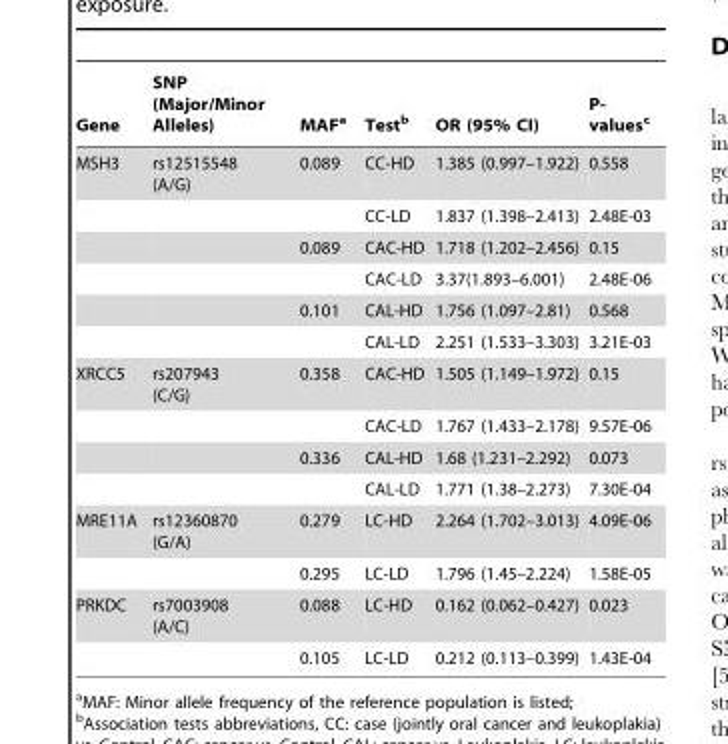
<table><thead><tr><td>Gene</td><td>SNP (Major/Minor Alleles)</td><td>MAF<sup>a</sup></td><td>Test<sup>b</sup></td><td>OR (95% CI)</td><td>P- values<sup>c</sup></td></tr></thead><tbody><tr><td rowspan="6">MSH3</td><td>rs12515548 (A/G)</td><td>0.089</td><td>CC-HD</td><td>1.385 (0.997–1.922)</td><td>0.558</td></tr><tr><td></td><td></td><td>CC-LD</td><td>1.837 (1.398–2.413)</td><td>2.48E-03</td></tr><tr><td></td><td>0.089</td><td>CAC-HD</td><td>1.718 (1.202–2.456)</td><td>0.15</td></tr><tr><td></td><td></td><td>CAC-LD</td><td>3.37(1.893–6.001)</td><td>2.48E-06</td></tr><tr><td></td><td>0.101</td><td>CAL-HD</td><td>1.756 (1.097–2.81)</td><td>0.568</td></tr><tr><td></td><td></td><td>CAL-LD</td><td>2.251 (1.533–3.303)</td><td>3.21E-03</td></tr><tr><td rowspan="4">XRCC5</td><td>rs207943 (C/G)</td><td>0.358</td><td>CAC-HD</td><td>1.505 (1.149–1.972)</td><td>0.15</td></tr><tr><td></td><td></td><td>CAC-LD</td><td>1.767 (1.433–2.178)</td><td>9.57E-06</td></tr><tr><td></td><td>0.336</td><td>CAL-HD</td><td>1.68 (1.231–2.292)</td><td>0.073</td></tr><tr><td></td><td></td><td>CAL-LD</td><td>1.771 (1.38–2.273)</td><td>7.30E-04</td></tr><tr><td rowspan="2">MRE11A</td><td>rs12360870 (G/A)</td><td>0.279</td><td>LC-HD</td><td>2.264 (1.702–3.013)</td><td>4.09E-06</td></tr><tr><td></td><td>0.295</td><td>LC-LD</td><td>1.796 (1.45–2.224)</td><td>1.58E-05</td></tr><tr><td rowspan="2">PRKDC</td><td>rs7003908 (A/C)</td><td>0.088</td><td>LC-HD</td><td>0.162 (0.062–0.427)</td><td>0.023</td></tr><tr><td></td><td>0.105</td><td>LC-LD</td><td>0.212 (0.113–0.399)</td><td>1.43E-04</td></tr></tbody></table>